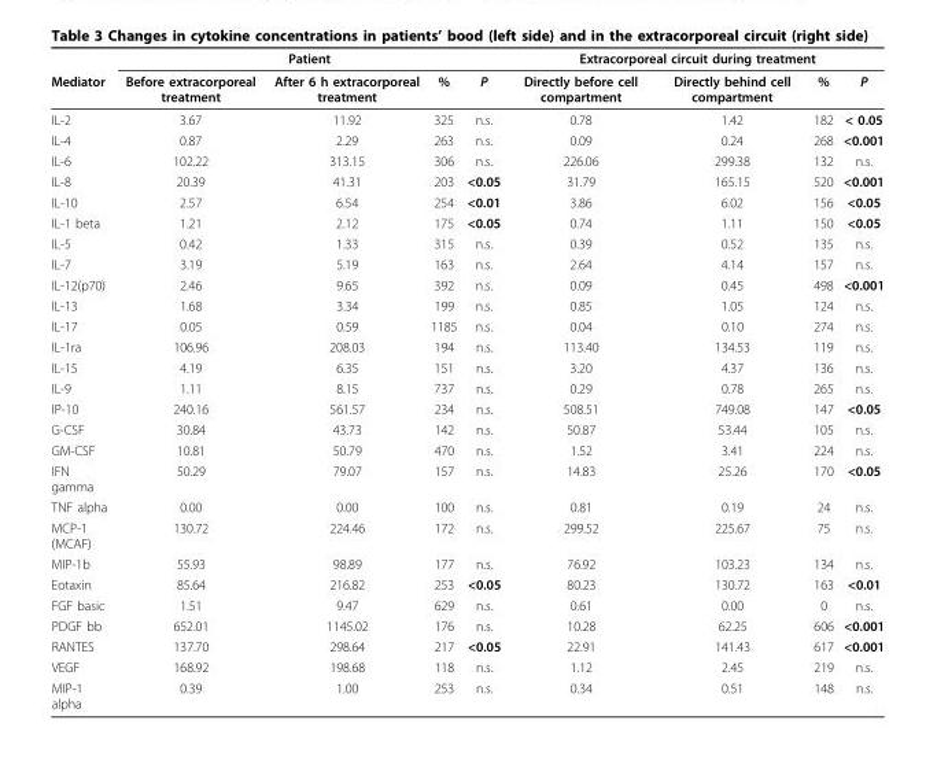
<table><thead><tr><td rowspan="2">Mediator</td><td colspan="4">Patient</td><td colspan="4">Extracorporeal circuit during treatment</td></tr><tr><td>Before extracorporeal treatment</td><td>After 6 h extracorporeal treatment</td><td>%</td><td>P</td><td>Directly before cell compartment</td><td>Directly behind cell compartment</td><td>%</td><td>P</td></tr></thead><tbody><tr><td>IL-2</td><td>3.67</td><td>11.92</td><td>325</td><td>n.s.</td><td>0.78</td><td>1.42</td><td>182</td><td>&lt; 0.05</td></tr><tr><td>IL-4</td><td>0.87</td><td>2.29</td><td>263</td><td>n.s.</td><td>0.09</td><td>0.24</td><td>268</td><td>&lt;0.001</td></tr><tr><td>IL-6</td><td>102.22</td><td>313.15</td><td>306</td><td>n.s.</td><td>226.06</td><td>299.38</td><td>132</td><td>n.s.</td></tr><tr><td>IL-8</td><td>20.39</td><td>41.31</td><td>203</td><td>&lt;0.05</td><td>31.79</td><td>165.15</td><td>520</td><td>&lt;0.001</td></tr><tr><td>IL-10</td><td>2.57</td><td>6.54</td><td>254</td><td>&lt;0.01</td><td>3.86</td><td>6.02</td><td>156</td><td>&lt;0.05</td></tr><tr><td>IL-1 beta</td><td>1.21</td><td>2.12</td><td>175</td><td>&lt;0.05</td><td>0.74</td><td>1.11</td><td>150</td><td>&lt;0.05</td></tr><tr><td>IL-5</td><td>0.42</td><td>1.33</td><td>315</td><td>n.s.</td><td>0.39</td><td>0.52</td><td>135</td><td>n.s.</td></tr><tr><td>IL-7</td><td>3.19</td><td>5.19</td><td>163</td><td>n.s.</td><td>2.64</td><td>4.14</td><td>157</td><td>n.s.</td></tr><tr><td>IL-12(p70)</td><td>2.46</td><td>9.65</td><td>392</td><td>n.s.</td><td>0.09</td><td>0.45</td><td>498</td><td>&lt;0.001</td></tr><tr><td>IL-13</td><td>1.68</td><td>3.34</td><td>199</td><td>n.s.</td><td>0.85</td><td>1.05</td><td>124</td><td>n.s.</td></tr><tr><td>IL-17</td><td>0.05</td><td>0.59</td><td>1185</td><td>n.s.</td><td>0.04</td><td>0.10</td><td>274</td><td>n.s.</td></tr><tr><td>IL-1ra</td><td>106.96</td><td>208.03</td><td>194</td><td>n.s.</td><td>113.40</td><td>134.53</td><td>119</td><td>n.s.</td></tr><tr><td>IL-15</td><td>4.19</td><td>6.35</td><td>151</td><td>n.s.</td><td>3.20</td><td>4.37</td><td>136</td><td>n.s.</td></tr><tr><td>IL-9</td><td>1.11</td><td>8.15</td><td>737</td><td>n.s.</td><td>0.29</td><td>0.78</td><td>265</td><td>n.s.</td></tr><tr><td>IP-10</td><td>240.16</td><td>561.57</td><td>234</td><td>n.s.</td><td>508.51</td><td>749.08</td><td>147</td><td>&lt;0.05</td></tr><tr><td>G-CSF</td><td>30.84</td><td>43.73</td><td>142</td><td>n.s.</td><td>50.87</td><td>53.44</td><td>105</td><td>n.s.</td></tr><tr><td>GM-CSF</td><td>10.81</td><td>50.79</td><td>470</td><td>n.s.</td><td>1.52</td><td>3.41</td><td>224</td><td>n.s.</td></tr><tr><td>IFN gamma</td><td>50.29</td><td>79.07</td><td>157</td><td>n.s.</td><td>14.83</td><td>25.26</td><td>170</td><td>&lt;0.05</td></tr><tr><td>TNF alpha</td><td>0.00</td><td>0.00</td><td>100</td><td>n.s.</td><td>0.81</td><td>0.19</td><td>24</td><td>n.s.</td></tr><tr><td>MCP-1 (MCAF)</td><td>130.72</td><td>224.46</td><td>172</td><td>n.s.</td><td>299.52</td><td>225.67</td><td>75</td><td>n.s.</td></tr><tr><td>MIP-1b</td><td>55.93</td><td>98.89</td><td>177</td><td>n.s.</td><td>76.92</td><td>103.23</td><td>134</td><td>n.s.</td></tr><tr><td>Eotaxin</td><td>85.64</td><td>216.82</td><td>253</td><td>&lt;0.05</td><td>80.23</td><td>130.72</td><td>163</td><td>&lt;0.01</td></tr><tr><td>FGF basic</td><td>1.51</td><td>9.47</td><td>629</td><td>n.s.</td><td>0.61</td><td>0.00</td><td>0</td><td>n.s.</td></tr><tr><td>PDGF bb</td><td>652.01</td><td>1145.02</td><td>176</td><td>n.s.</td><td>10.28</td><td>62.25</td><td>606</td><td>&lt;0.001</td></tr><tr><td>RANTES</td><td>137.70</td><td>298.64</td><td>217</td><td>&lt;0.05</td><td>22.91</td><td>141.43</td><td>617</td><td>&lt;0.001</td></tr><tr><td>VEGF</td><td>168.92</td><td>198.68</td><td>118</td><td>n.s.</td><td>1.12</td><td>2.45</td><td>219</td><td>n.s.</td></tr><tr><td>MIP-1 alpha</td><td>0.39</td><td>1.00</td><td>253</td><td>n.s.</td><td>0.34</td><td>0.51</td><td>148</td><td>n.s.</td></tr></tbody></table>